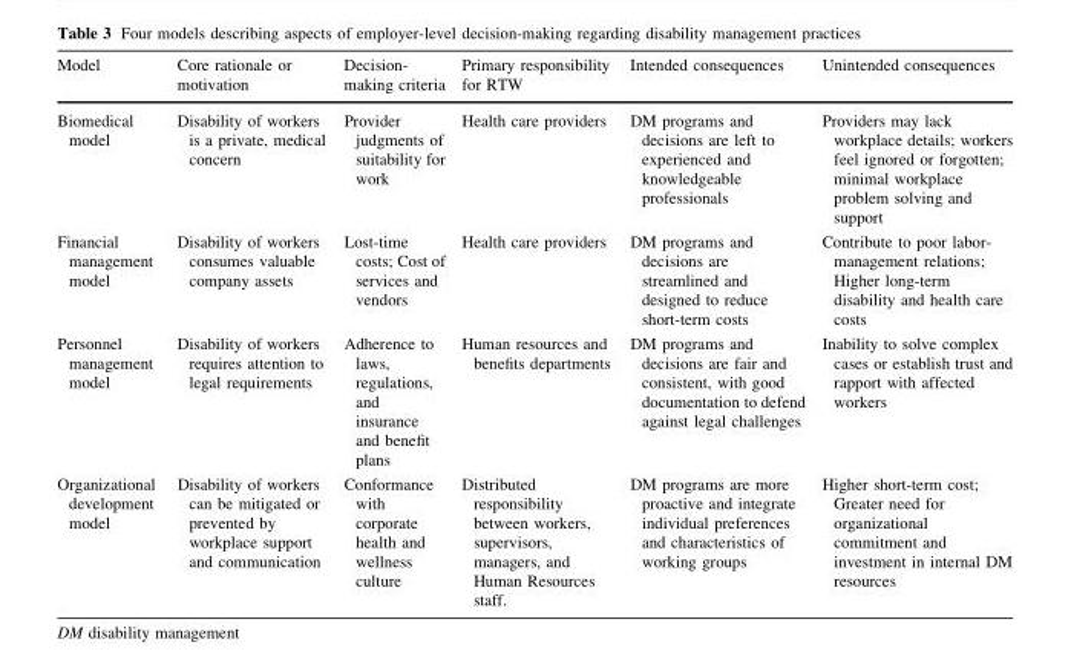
<table><thead><tr><td>Model</td><td>Core rationale or motivation</td><td>Decision- making criteria</td><td>Primary responsibility for RTW</td><td>Intended consequences</td><td>Unintended consequences</td></tr></thead><tbody><tr><td>Biomedical model</td><td>Disability of workers is a private, medical concern</td><td>Provider judgments of suitability for work</td><td>Health care providers</td><td>DM programs and decisions are left to experienced and knowledgeable professionals</td><td>Providers may lack workplace details; workers feel ignored or forgotten; minimal workplace problem solving and support</td></tr><tr><td>Financial management model</td><td>Disability of workers consumes valuable company assets</td><td>Lost-time costs; Cost of services and vendors</td><td>Health care providers</td><td>DM programs and decisions are streamlined and designed to reduce short-term costs</td><td>Contribute to poor labor- management relations; Higher long-term disability and health care costs</td></tr><tr><td>Personnel management model</td><td>Disability of workers requires attention to legal requirements</td><td>Adherence to laws, regulations, and insurance and benefit plans</td><td>Human resources and benefits departments</td><td>DM programs and decisions are fair and consistent, with good documentation to defend against legal challenges</td><td>Inability to solve complex cases or establish trust and rapport with affected workers</td></tr><tr><td>Organizational development model</td><td>Disability of workers can be mitigated or prevented by workplace support and communication</td><td>Conformance with corporate health and wellness culture</td><td>Distributed responsibility between workers, supervisors, managers, and Human Resources staff.</td><td>DM programs are more proactive and integrate individual preferences and characteristics of working groups</td><td>Higher short-term cost; Greater need for organizational commitment and investment in internal DM resources</td></tr></tbody></table>